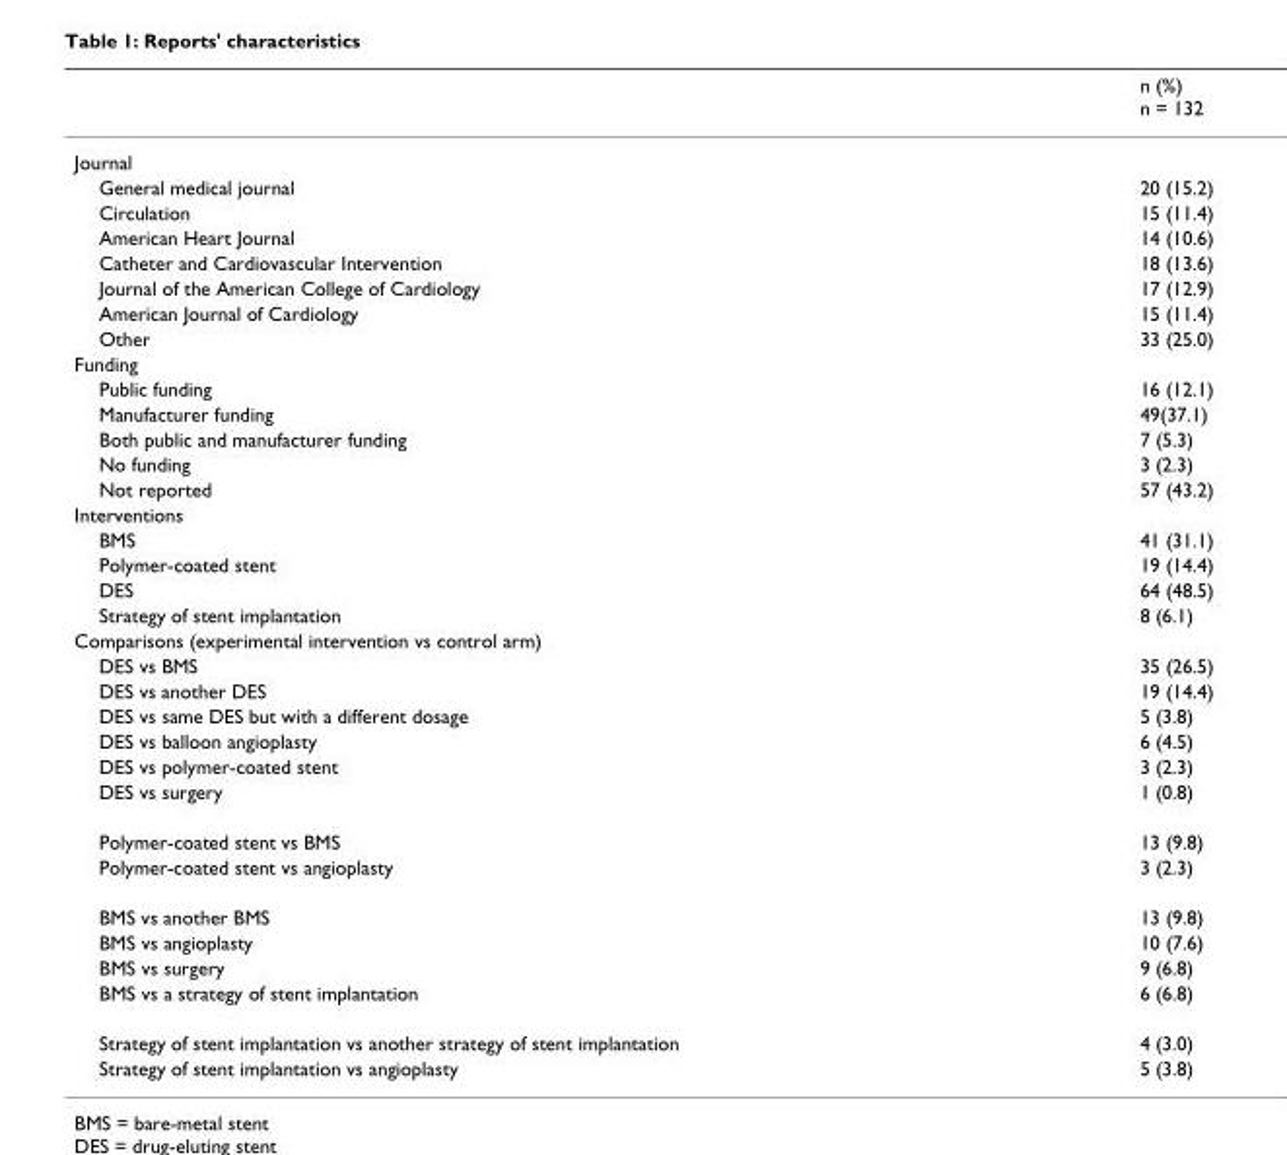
<table><thead><tr><td></td><td>n (%) n = 132</td></tr></thead><tbody><tr><td colspan="2">Journal</td></tr><tr><td>General medical journal</td><td>20 (15.2)</td></tr><tr><td>Circulation</td><td>15 (11.4)</td></tr><tr><td>American Heart Journal</td><td>14 (10.6)</td></tr><tr><td>Catheter and Cardiovascular Intervention</td><td>18 (13.6)</td></tr><tr><td>Journal of the American College of Cardiology</td><td>17 (12.9)</td></tr><tr><td>American Journal of Cardiology</td><td>15 (11.4)</td></tr><tr><td>Other</td><td>33 (25.0)</td></tr><tr><td colspan="2">Funding</td></tr><tr><td>Public funding</td><td>16 (12.1)</td></tr><tr><td>Manufacturer funding</td><td>49(37.1)</td></tr><tr><td>Both public and manufacturer funding</td><td>7 (5.3)</td></tr><tr><td>No funding</td><td>3 (2.3)</td></tr><tr><td>Not reported</td><td>57 (43.2)</td></tr><tr><td colspan="2">Interventions</td></tr><tr><td>BMS</td><td>41 (31.1)</td></tr><tr><td>Polymer-coated stent</td><td>19 (14.4)</td></tr><tr><td>DES</td><td>64 (48.5)</td></tr><tr><td>Strategy of stent implantation</td><td>8 (6.1)</td></tr><tr><td colspan="2">Comparisons (experimental intervention vs control arm)</td></tr><tr><td>DES vs BMS</td><td>35 (26.5)</td></tr><tr><td>DES vs another DES</td><td>19 (14.4)</td></tr><tr><td>DES vs same DES but with a different dosage</td><td>5 (3.8)</td></tr><tr><td>DES vs balloon angioplasty</td><td>6 (4.5)</td></tr><tr><td>DES vs polymer-coated stent</td><td>3 (2.3)</td></tr><tr><td>DES vs surgery</td><td>1 (0.8)</td></tr><tr><td>Polymer-coated stent vs BMS</td><td>13 (9.8)</td></tr><tr><td>Polymer-coated stent vs angioplasty</td><td>3 (2.3)</td></tr><tr><td>BMS vs another BMS</td><td>13 (9.8)</td></tr><tr><td>BMS vs angioplasty</td><td>10 (7.6)</td></tr><tr><td>BMS vs surgery</td><td>9 (6.8)</td></tr><tr><td>BMS vs a strategy of stent implantation</td><td>6 (6.8)</td></tr><tr><td>Strategy of stent implantation vs another strategy of stent implantation</td><td>4 (3.0)</td></tr><tr><td>Strategy of stent implantation vs angioplasty</td><td>5 (3.8)</td></tr></tbody></table>